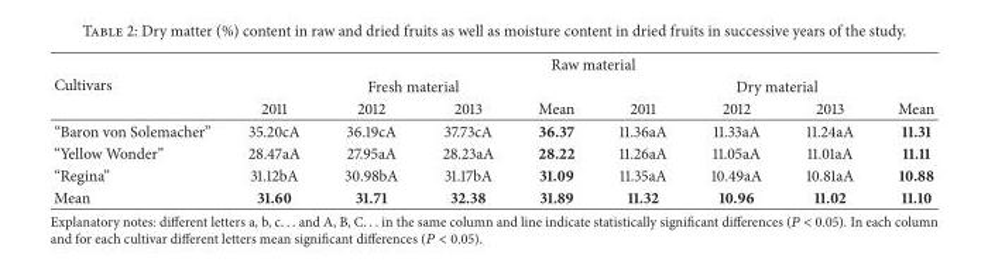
<table><thead><tr><td rowspan="3">Cultivars</td><td colspan="8">Raw material</td></tr><tr><td colspan="4">Fresh material</td><td colspan="4">Dry material</td></tr><tr><td>2011</td><td>2012</td><td>2013</td><td>Mean</td><td>2011</td><td>2012</td><td>2013</td><td>Mean</td></tr></thead><tbody><tr><td>“Baron von Solemacher”</td><td>35.20cA</td><td>36.19cA</td><td>37.73cA</td><td>36.37</td><td>11.36aA</td><td>11.33aA</td><td>11.24aA</td><td>11.31</td></tr><tr><td>“Yellow Wonder”</td><td>28.47aA</td><td>27.95aA</td><td>28.23aA</td><td>28.22</td><td>11.26aA</td><td>11.05aA</td><td>11.01aA</td><td>11.11</td></tr><tr><td>“Regina”</td><td>31.12bA</td><td>30.98bA</td><td>31.17bA</td><td>31.09</td><td>11.35aA</td><td>10.49aA</td><td>10.81aA</td><td>10.88</td></tr><tr><td>Mean</td><td>31.60</td><td>31.71</td><td>32.38</td><td>31.89</td><td>11.32</td><td>10.96</td><td>11.02</td><td>11.10</td></tr></tbody></table>